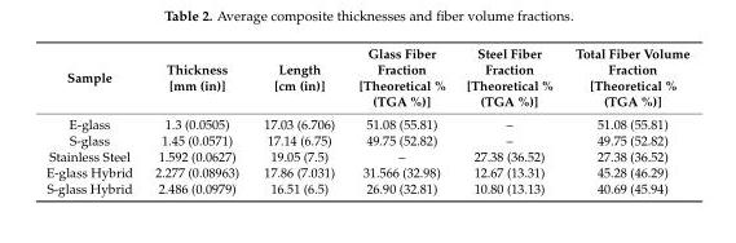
<table><thead><tr><td>Sample</td><td>Thickness [mm (in)]</td><td>Length [cm (in)]</td><td>Glass Fiber Fraction [Theoretical % (TGA %)]</td><td>Steel Fiber Fraction [Theoretical % (TGA %)]</td><td>Total Fiber Volume Fraction [Theoretical % (TGA %)]</td></tr></thead><tbody><tr><td>E-glass</td><td>1.3 (0.0505)</td><td>17.03 (6.706)</td><td>51.08 (55.81)</td><td>–</td><td>51.08 (55.81)</td></tr><tr><td>S-glass</td><td>1.45 (0.0571)</td><td>17.14 (6.75)</td><td>49.75 (52.82)</td><td>–</td><td>49.75 (52.82)</td></tr><tr><td>Stainless Steel</td><td>1.592 (0.0627)</td><td>19.05 (7.5)</td><td>–</td><td>27.38 (36.52)</td><td>27.38 (36.52)</td></tr><tr><td>E-glass Hybrid</td><td>2.277 (0.08963)</td><td>17.86 (7.031)</td><td>31.566 (32.98)</td><td>12.67 (13.31)</td><td>45.28 (46.29)</td></tr><tr><td>S-glass Hybrid</td><td>2.486 (0.0979)</td><td>16.51 (6.5)</td><td>26.90 (32.81)</td><td>10.80 (13.13)</td><td>40.69 (45.94)</td></tr></tbody></table>